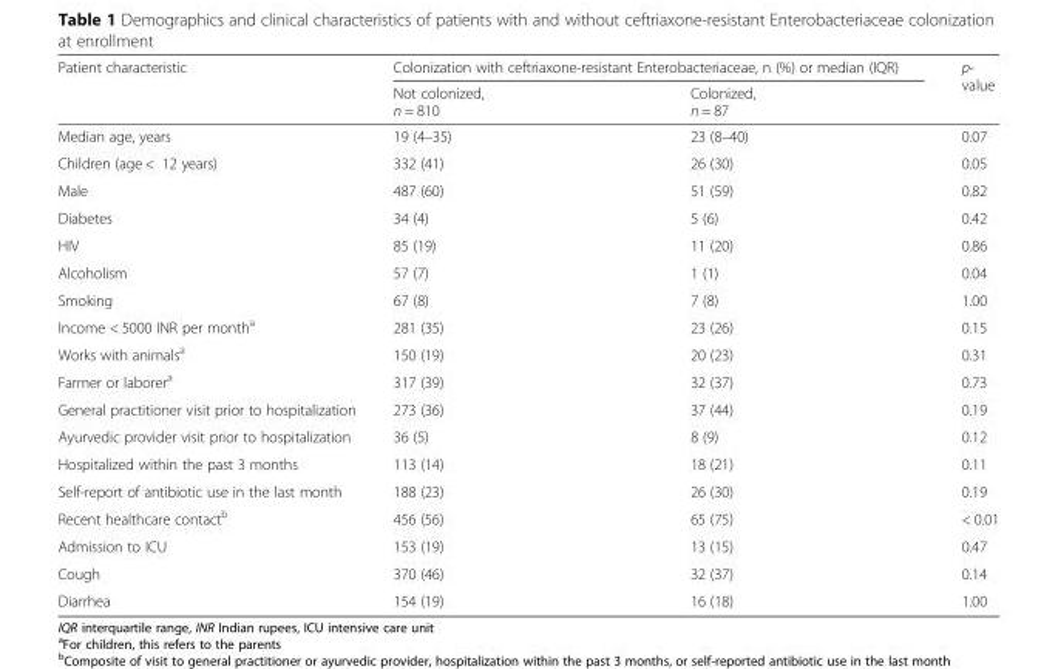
<table><thead><tr><td rowspan="2">Patient characteristic</td><td colspan="2">Colonization with ceftriaxone-resistant Enterobacteriaceae, n (%) or median (IQR)</td><td rowspan="2">p- value</td></tr><tr><td>Not colonized, n = 810</td><td>Colonized, n = 87</td></tr></thead><tbody><tr><td>Median age, years</td><td>19 (4–35)</td><td>23 (8–40)</td><td>0.07</td></tr><tr><td>Children (age &lt; 12 years)</td><td>332 (41)</td><td>26 (30)</td><td>0.05</td></tr><tr><td>Male</td><td>487 (60)</td><td>51 (59)</td><td>0.82</td></tr><tr><td>Diabetes</td><td>34 (4)</td><td>5 (6)</td><td>0.42</td></tr><tr><td>HIV</td><td>85 (19)</td><td>11 (20)</td><td>0.86</td></tr><tr><td>Alcoholism</td><td>57 (7)</td><td>1 (1)</td><td>0.04</td></tr><tr><td>Smoking</td><td>67 (8)</td><td>7 (8)</td><td>1.00</td></tr><tr><td>Income &lt; 5000 INR per month<sup>a</sup></td><td>281 (35)</td><td>23 (26)</td><td>0.15</td></tr><tr><td>Works with animals<sup>a</sup></td><td>150 (19)</td><td>20 (23)</td><td>0.31</td></tr><tr><td>Farmer or laborer<sup>a</sup></td><td>317 (39)</td><td>32 (37)</td><td>0.73</td></tr><tr><td>General practitioner visit prior to hospitalization</td><td>273 (36)</td><td>37 (44)</td><td>0.19</td></tr><tr><td>Ayurvedic provider visit prior to hospitalization</td><td>36 (5)</td><td>8 (9)</td><td>0.12</td></tr><tr><td>Hospitalized within the past 3 months</td><td>113 (14)</td><td>18 (21)</td><td>0.11</td></tr><tr><td>Self-report of antibiotic use in the last month</td><td>188 (23)</td><td>26 (30)</td><td>0.19</td></tr><tr><td>Recent healthcare contact<sup>b</sup></td><td>456 (56)</td><td>65 (75)</td><td>&lt; 0.01</td></tr><tr><td>Admission to ICU</td><td>153 (19)</td><td>13 (15)</td><td>0.47</td></tr><tr><td>Cough</td><td>370 (46)</td><td>32 (37)</td><td>0.14</td></tr><tr><td>Diarrhea</td><td>154 (19)</td><td>16 (18)</td><td>1.00</td></tr></tbody></table>